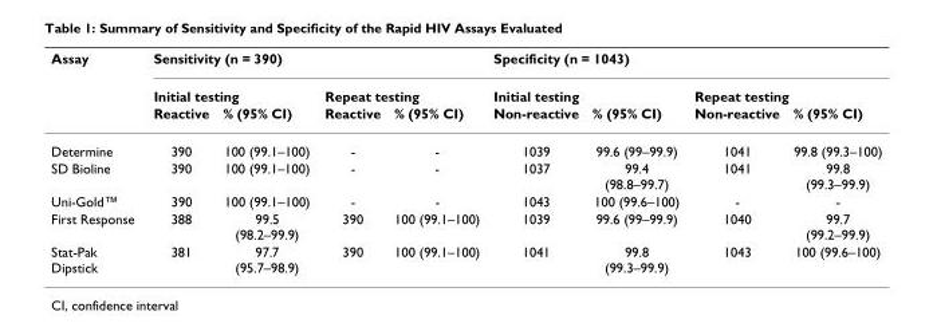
<table><thead><tr><td rowspan="3">Assay</td><td colspan="4">Sensitivity (n = 390)</td><td colspan="4">Specificity (n = 1043)</td></tr><tr><td colspan="2">Initial testing</td><td colspan="2">Repeat testing</td><td colspan="2">Initial testing</td><td colspan="2">Repeat testing</td></tr><tr><td>Reactive</td><td>% (95% CI)</td><td>Reactive</td><td>% (95% CI)</td><td>Non-reactive</td><td>% (95% CI)</td><td>Non-reactive</td><td>% (95% CI)</td></tr></thead><tbody><tr><td>Determine</td><td>390</td><td>100 (99.1–100)</td><td>-</td><td>-</td><td>1039</td><td>99.6 (99–99.9)</td><td>1041</td><td>99.8 (99.3–100)</td></tr><tr><td>SD Bioline</td><td>390</td><td>100 (99.1–100)</td><td>-</td><td>-</td><td>1037</td><td>99.4 (98.8–99.7)</td><td>1041</td><td>99.8 (99.3–99.9)</td></tr><tr><td>Uni-Gold™</td><td>390</td><td>100 (99.1–100)</td><td>-</td><td>-</td><td>1043</td><td>100 (99.6–100)</td><td>-</td><td>-</td></tr><tr><td>First Response</td><td>388</td><td>99.5 (98.2–99.9)</td><td>390</td><td>100 (99.1–100)</td><td>1039</td><td>99.6 (99–99.9)</td><td>1040</td><td>99.7 (99.2–99.9)</td></tr><tr><td>Stat-Pak Dipstick</td><td>381</td><td>97.7 (95.7–98.9)</td><td>390</td><td>100 (99.1–100)</td><td>1041</td><td>99.8 (99.3–99.9)</td><td>1043</td><td>100 (99.6–100)</td></tr></tbody></table>